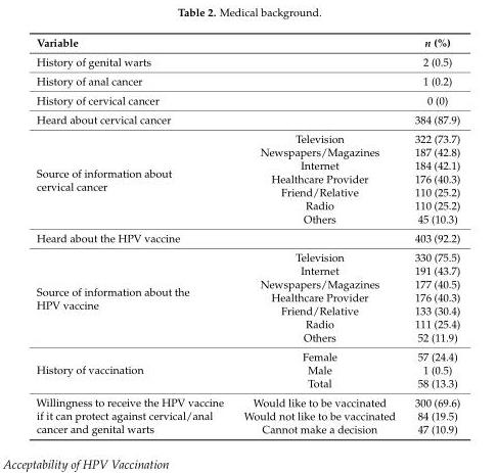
<table><thead><tr><td colspan="2">Variable</td><td>n (%)</td></tr></thead><tbody><tr><td colspan="2">History of genital warts</td><td>2 (0.5)</td></tr><tr><td colspan="2">History of anal cancer</td><td>1 (0.2)</td></tr><tr><td colspan="2">History of cervical cancer</td><td>0 (0)</td></tr><tr><td colspan="2">Heard about cervical cancer</td><td>384 (87.9)</td></tr><tr><td rowspan="7">Source of information about cervical cancer</td><td>Television</td><td>322 (73.7)</td></tr><tr><td>Newspapers/Magazines</td><td>187 (42.8)</td></tr><tr><td>Internet</td><td>184 (42.1)</td></tr><tr><td>Healthcare Provider</td><td>176 (40.3)</td></tr><tr><td>Friend/Relative</td><td>110 (25.2)</td></tr><tr><td>Radio</td><td>110 (25.2)</td></tr><tr><td>Others</td><td>45 (10.3)</td></tr><tr><td colspan="2">Heard about the HPV vaccine</td><td>403 (92.2)</td></tr><tr><td rowspan="7">Source of information about the HPV vaccine</td><td>Television</td><td>330 (75.5)</td></tr><tr><td>Internet</td><td>191 (43.7)</td></tr><tr><td>Newspapers/Magazines</td><td>177 (40.5)</td></tr><tr><td>Healthcare Provider</td><td>176 (40.3)</td></tr><tr><td>Friend/Relative</td><td>133 (30.4)</td></tr><tr><td>Radio</td><td>111 (25.4)</td></tr><tr><td>Others</td><td>52 (11.9)</td></tr><tr><td rowspan="3">History of vaccination</td><td>Female</td><td>57 (24.4)</td></tr><tr><td>Male</td><td>1 (0.5)</td></tr><tr><td>Total</td><td>58 (13.3)</td></tr><tr><td rowspan="3">Willingness to receive the HPV vaccine if it can protect against cervical/anal cancer and genital warts</td><td>Would like to be vaccinated</td><td>300 (69.6)</td></tr><tr><td>Would not like to be vaccinated</td><td>84 (19.5)</td></tr><tr><td>Cannot make a decision</td><td>47 (10.9)</td></tr></tbody></table>